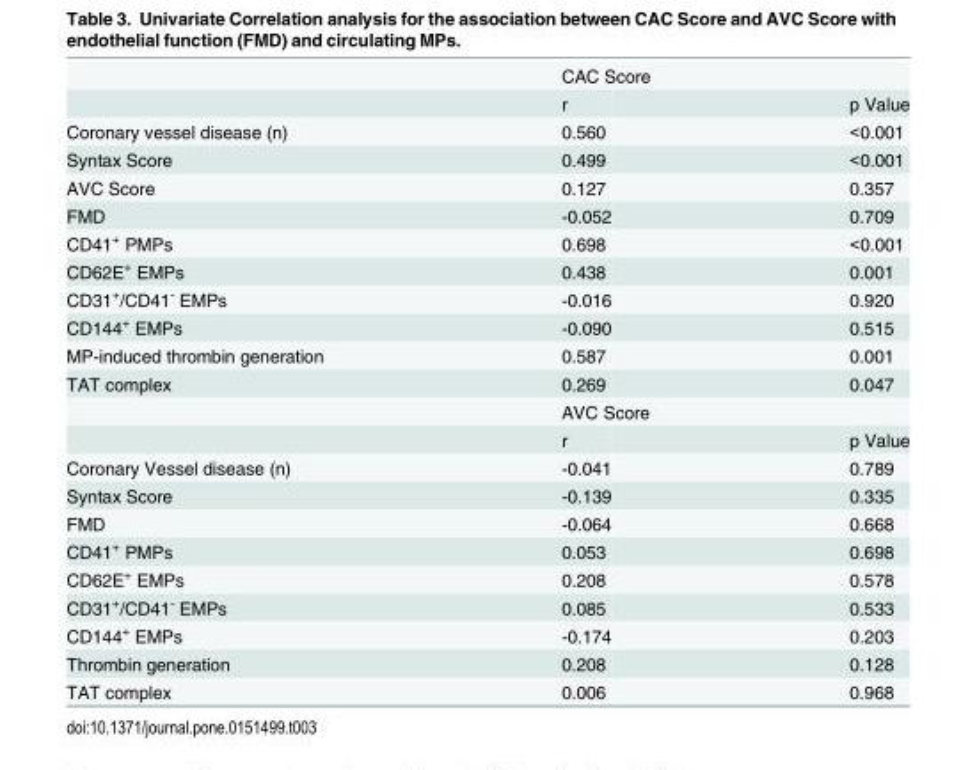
<table><thead><tr><td rowspan="2"></td><td colspan="2">CAC Score</td></tr><tr><td>r</td><td>p Value</td></tr></thead><tbody><tr><td>Coronary vessel disease (n)</td><td>0.560</td><td>&lt;0.001</td></tr><tr><td>Syntax Score</td><td>0.499</td><td>&lt;0.001</td></tr><tr><td>AVC Score</td><td>0.127</td><td>0.357</td></tr><tr><td>FMD</td><td>-0.052</td><td>0.709</td></tr><tr><td>CD41<sup>+</sup> PMPs</td><td>0.698</td><td>&lt;0.001</td></tr><tr><td>CD62E<sup>+</sup> EMPs</td><td>0.438</td><td>0.001</td></tr><tr><td>CD31<sup>+</sup>/CD41<sup>-</sup> EMPs</td><td>-0.016</td><td>0.920</td></tr><tr><td>CD144<sup>+</sup> EMPs</td><td>-0.090</td><td>0.515</td></tr><tr><td>MP-induced thrombin generation</td><td>0.587</td><td>0.001</td></tr><tr><td rowspan="3">TAT complex</td><td>0.269</td><td>0.047</td></tr><tr><td colspan="2">AVC Score</td></tr><tr><td>r</td><td>p Value</td></tr><tr><td>Coronary Vessel disease (n)</td><td>-0.041</td><td>0.789</td></tr><tr><td>Syntax Score</td><td>-0.139</td><td>0.335</td></tr><tr><td>FMD</td><td>-0.064</td><td>0.668</td></tr><tr><td>CD41<sup>+</sup> PMPs</td><td>0.053</td><td>0.698</td></tr><tr><td>CD62E<sup>+</sup> EMPs</td><td>0.208</td><td>0.578</td></tr><tr><td>CD31<sup>+</sup>/CD41<sup>-</sup> EMPs</td><td>0.085</td><td>0.533</td></tr><tr><td>CD144<sup>+</sup> EMPs</td><td>-0.174</td><td>0.203</td></tr><tr><td>Thrombin generation</td><td>0.208</td><td>0.128</td></tr><tr><td>TAT complex</td><td>0.006</td><td>0.968</td></tr></tbody></table>